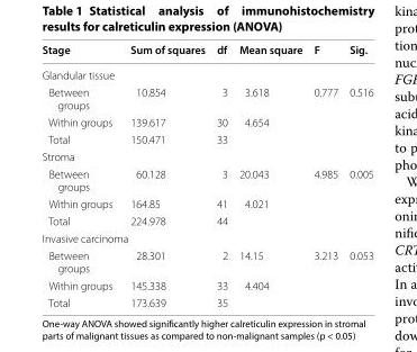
<table><thead><tr><td>Stage</td><td>Sum of squares</td><td>df</td><td>Mean square</td><td>F</td><td>Sig.</td></tr></thead><tbody><tr><td colspan="6">Glandular tissue</td></tr><tr><td>Between groups</td><td>10.854</td><td>3</td><td>3.618</td><td>0.777</td><td>0.516</td></tr><tr><td>Within groups</td><td>139.617</td><td>30</td><td>4.654</td><td></td><td></td></tr><tr><td>Total</td><td>150.471</td><td>33</td><td></td><td></td><td></td></tr><tr><td colspan="6">Stroma</td></tr><tr><td>Between groups</td><td>60.128</td><td>3</td><td>20.043</td><td>4.985</td><td>0.005</td></tr><tr><td>Within groups</td><td>164.85</td><td>41</td><td>4.021</td><td></td><td></td></tr><tr><td>Total</td><td>224.978</td><td>44</td><td></td><td></td><td></td></tr><tr><td colspan="6">Invasive carcinoma</td></tr><tr><td>Between groups</td><td>28.301</td><td>2</td><td>14.15</td><td>3.213</td><td>0.053</td></tr><tr><td>Within groups</td><td>145.338</td><td>33</td><td>4.404</td><td></td><td></td></tr><tr><td>Total</td><td>173.639</td><td>35</td><td></td><td></td><td></td></tr></tbody></table>